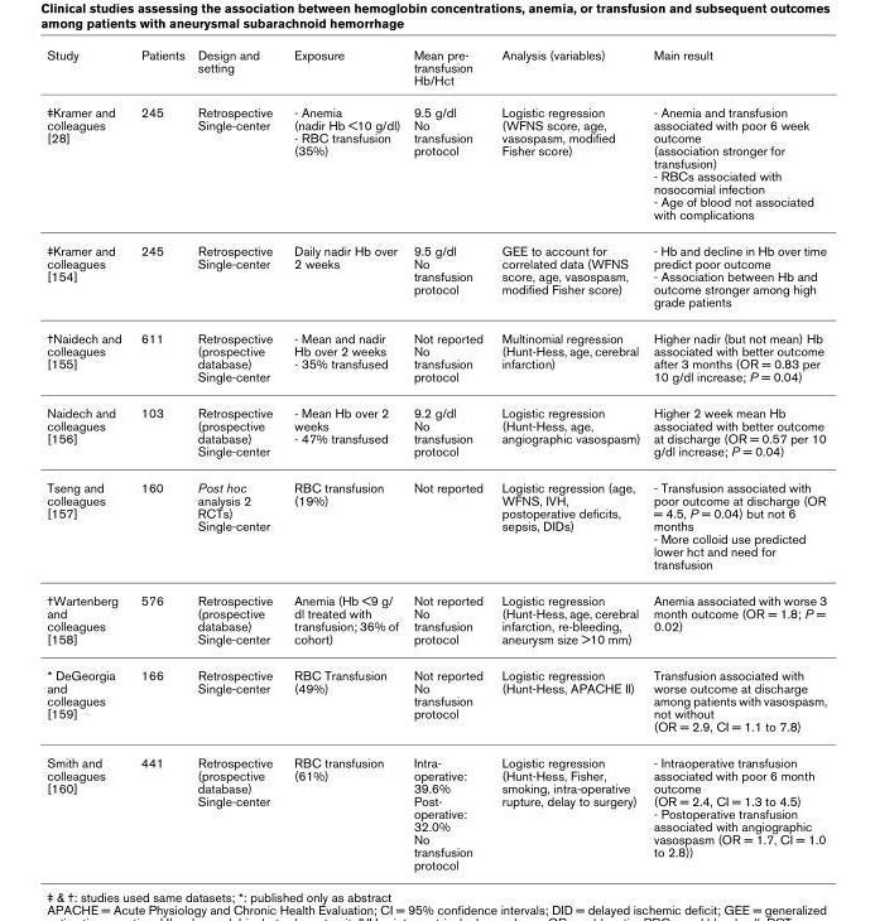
<table><thead><tr><td>Study</td><td>Patients</td><td>Design and setting</td><td>Exposure</td><td>Mean pre- transfusion Hb/Hct</td><td>Analysis (variables)</td><td>Main result</td></tr></thead><tbody><tr><td>‡Kramer and colleagues [28]</td><td>245</td><td>Retrospective Single-center</td><td>- Anemia (nadir Hb &lt;10 g/dl) - RBC transfusion (35%)</td><td>9.5 g/dl No transfusion protocol</td><td>Logistic regression (WFNS score, age, vasospasm, modified Fisher score)</td><td>- Anemia and transfusion associated with poor 6 week outcome (association stronger for transfusion) - RBCs associated with nosocomial infection - Age of blood not associated with complications</td></tr><tr><td>‡Kramer and colleagues [154]</td><td>245</td><td>Retrospective Single-center</td><td>Daily nadir Hb over 2 weeks</td><td>9.5 g/dl No transfusion protocol</td><td>GEE to account for correlated data (WFNS score, age, vasospasm, modified Fisher score)</td><td>- Hb and decline in Hb over time predict poor outcome - Association between Hb and outcome stronger among high grade patients</td></tr><tr><td>†Naidech and colleagues [155]</td><td>611</td><td>Retrospective (prospective database) Single-center</td><td>- Mean and nadir Hb over 2 weeks - 35% transfused</td><td>Not reported No transfusion protocol</td><td>Multinomial regression (Hunt-Hess, age, cerebral infarction)</td><td>Higher nadir (but not mean) Hb associated with better outcome after 3 months (OR = 0.83 per 10 g/dl increase; P = 0.04)</td></tr><tr><td>Naidech and colleagues [156]</td><td>103</td><td>Retrospective (prospective database) Single-center</td><td>- Mean Hb over 2 weeks - 47% transfused</td><td>9.2 g/dl No transfusion protocol</td><td>Logistic regression (Hunt-Hess, age, angiographic vasospasm)</td><td>Higher 2 week mean Hb associated with better outcome at discharge (OR = 0.57 per 10 g/dl increase; P = 0.04)</td></tr><tr><td>Tseng and colleagues [157]</td><td>160</td><td>Post hoc analysis 2 RCTs) Single-center</td><td>RBC transfusion (19%)</td><td>Not reported</td><td>Logistic regression (age, WFNS, IVH, postoperative deficits, sepsis, DIDs)</td><td>- Transfusion associated with poor outcome at discharge (OR = 4.5, P = 0.04) but not 6 months - More colloid use predicted lower hct and need for transfusion</td></tr><tr><td>†Wartenberg and colleagues [158]</td><td>576</td><td>Retrospective (prospective database) Single-center</td><td>Anemia (Hb &lt;9 g/ dl treated with transfusion; 36% of cohort)</td><td>Not reported No transfusion protocol</td><td>Logistic regression (Hunt-Hess, age, cerebral infarction, re-bleeding, aneurysm size &gt;10 mm)</td><td>Anemia associated with worse 3 month outcome (OR = 1.8; P = 0.02)</td></tr><tr><td>* DeGeorgia and colleagues [159]</td><td>166</td><td>Retrospective Single-center</td><td>RBC Transfusion (49%)</td><td>Not reported No transfusion protocol</td><td>Logistic regression (Hunt-Hess, APACHE II)</td><td>Transfusion associated with worse outcome at discharge among patients with vasospasm, not without (OR = 2.9, CI = 1.1 to 7.8)</td></tr><tr><td>Smith and colleagues [160]</td><td>441</td><td>Retrospective (prospective database) Single-center</td><td>RBC transfusion (61%)</td><td>Intra- operative: 39.6% Post- operative: 32.0% No transfusion protocol</td><td>Logistic regression (Hunt-Hess, Fisher, smoking, intra-operative rupture, delay to surgery)</td><td>- Intraoperative transfusion associated with poor 6 month outcome (OR = 2.4, CI = 1.3 to 4.5) - Postoperative transfusion associated with angiographic vasospasm (OR = 1.7, CI = 1.0 to 2.8))</td></tr></tbody></table>